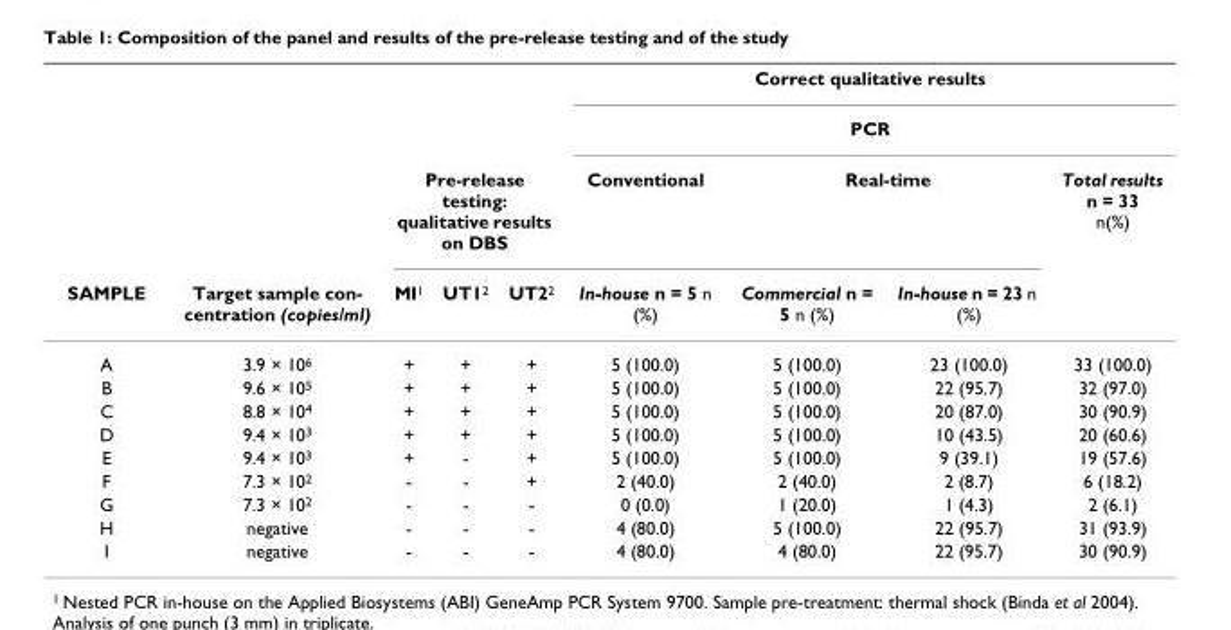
<table><thead><tr><td rowspan="4">SAMPLE</td><td rowspan="4">Target sample con- centration (copies/ml)</td><td rowspan="2"></td><td rowspan="2"></td><td rowspan="2"></td><td rowspan="2" colspan="4">Correct qualitative results PCR</td></tr><tr></tr><tr><td colspan="3">Pre-release testing: qualitative results on DBS</td><td rowspan="2">Conventional In-house n = 5 n (%)</td><td colspan="2">Real-time</td><td rowspan="2">Total results n = 33 n(%)</td></tr><tr><td>MI<sup>1</sup></td><td>UT1<sup>2</sup></td><td>UT2<sup>2</sup></td><td>Commercial n = 5 n (%)</td><td>In-house n = 23 n (%)</td></tr></thead><tbody><tr><td>A</td><td>3.9 × 10<sup>6</sup></td><td>+</td><td>+</td><td>+</td><td>5 (100.0)</td><td>5 (100.0)</td><td>23 (100.0)</td><td>33 (100.0)</td></tr><tr><td>B</td><td>9.6 × 10<sup>5</sup></td><td>+</td><td>+</td><td>+</td><td>5 (100.0)</td><td>5 (100.0)</td><td>22 (95.7)</td><td>32 (97.0)</td></tr><tr><td>C</td><td>8.8 × 10<sup>4</sup></td><td>+</td><td>+</td><td>+</td><td>5 (100.0)</td><td>5 (100.0)</td><td>20 (87.0)</td><td>30 (90.9)</td></tr><tr><td>D</td><td>9.4 × 10<sup>3</sup></td><td>+</td><td>+</td><td>+</td><td>5 (100.0)</td><td>5 (100.0)</td><td>10 (43.5)</td><td>20 (60.6)</td></tr><tr><td>E</td><td>9.4 × 10<sup>3</sup></td><td>+</td><td>-</td><td>+</td><td>5 (100.0)</td><td>5 (100.0)</td><td>9 (39.1)</td><td>19 (57.6)</td></tr><tr><td>F</td><td>7.3 × 10<sup>2</sup></td><td>-</td><td>-</td><td>+</td><td>2 (40.0)</td><td>2 (40.0)</td><td>2 (8.7)</td><td>6 (18.2)</td></tr><tr><td>G</td><td>7.3 × 10<sup>2</sup></td><td>-</td><td>-</td><td>-</td><td>0 (0.0)</td><td>1 (20.0)</td><td>1 (4.3)</td><td>2 (6.1)</td></tr><tr><td>H</td><td>negative</td><td>-</td><td>-</td><td>-</td><td>4 (80.0)</td><td>5 (100.0)</td><td>22 (95.7)</td><td>31 (93.9)</td></tr><tr><td>I</td><td>negative</td><td>-</td><td>-</td><td>-</td><td>4 (80.0)</td><td>4 (80.0)</td><td>22 (95.7)</td><td>30 (90.9)</td></tr></tbody></table>